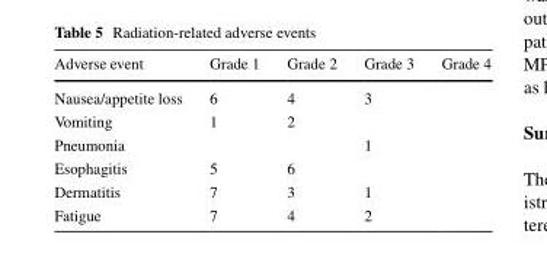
<table><thead><tr><td>Adverse event</td><td>Grade 1</td><td>Grade 2</td><td>Grade 3</td><td>Grade 4</td></tr></thead><tbody><tr><td>Nausea/appetite loss</td><td>6</td><td>4</td><td>3</td><td></td></tr><tr><td>Vomiting</td><td>1</td><td>2</td><td></td><td></td></tr><tr><td>Pneumonia</td><td></td><td></td><td>1</td><td></td></tr><tr><td>Esophagitis</td><td>5</td><td>6</td><td></td><td></td></tr><tr><td>Dermatitis</td><td>7</td><td>3</td><td>1</td><td></td></tr><tr><td>Fatigue</td><td>7</td><td>4</td><td>2</td><td></td></tr></tbody></table>